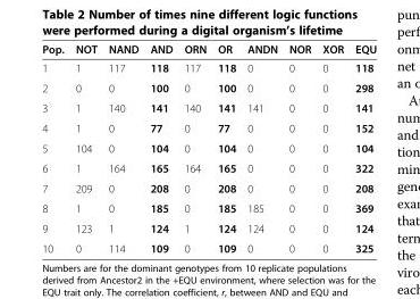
<table><thead><tr><td>Pop.</td><td>NOT</td><td>NAND</td><td>AND</td><td>ORN</td><td>OR</td><td>ANDN</td><td>NOR</td><td>XOR</td><td>EQU</td></tr></thead><tbody><tr><td>1</td><td>1</td><td>117</td><td>118</td><td>117</td><td>118</td><td>0</td><td>0</td><td>0</td><td>118</td></tr><tr><td>2</td><td>0</td><td>0</td><td>100</td><td>0</td><td>100</td><td>0</td><td>0</td><td>0</td><td>298</td></tr><tr><td>3</td><td>1</td><td>140</td><td>141</td><td>140</td><td>141</td><td>141</td><td>0</td><td>0</td><td>141</td></tr><tr><td>4</td><td>1</td><td>0</td><td>77</td><td>0</td><td>77</td><td>0</td><td>0</td><td>0</td><td>152</td></tr><tr><td>5</td><td>104</td><td>0</td><td>104</td><td>0</td><td>104</td><td>0</td><td>0</td><td>0</td><td>104</td></tr><tr><td>6</td><td>1</td><td>164</td><td>165</td><td>164</td><td>165</td><td>0</td><td>0</td><td>0</td><td>322</td></tr><tr><td>7</td><td>209</td><td>0</td><td>208</td><td>0</td><td>208</td><td>0</td><td>0</td><td>0</td><td>208</td></tr><tr><td>8</td><td>1</td><td>0</td><td>185</td><td>0</td><td>185</td><td>185</td><td>0</td><td>0</td><td>369</td></tr><tr><td>9</td><td>123</td><td>1</td><td>124</td><td>1</td><td>124</td><td>124</td><td>0</td><td>0</td><td>124</td></tr><tr><td>10</td><td>0</td><td>114</td><td>109</td><td>0</td><td>109</td><td>0</td><td>0</td><td>0</td><td>325</td></tr></tbody></table>